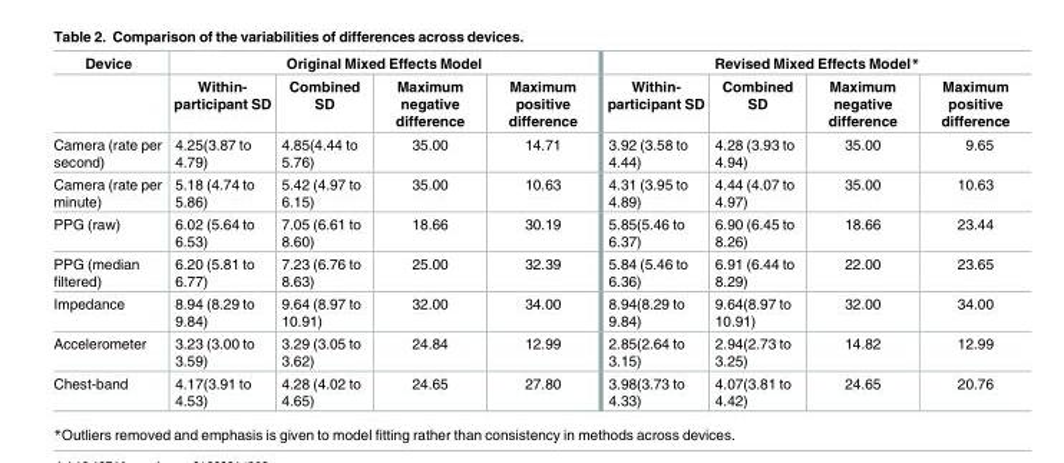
<table><thead><tr><td rowspan="2">Device</td><td colspan="4">Original Mixed Effects Model</td><td colspan="4">Revised Mixed Effects Model*</td></tr><tr><td>Within- participant SD</td><td>Combined SD</td><td>Maximum negative difference</td><td>Maximum positive difference</td><td>Within- participant SD</td><td>Combined SD</td><td>Maximum negative difference</td><td>Maximum positive difference</td></tr></thead><tbody><tr><td>Camera (rate per second)</td><td>4.25(3.87 to 4.79)</td><td>4.85(4.44 to 5.76)</td><td>35.00</td><td>14.71</td><td>3.92 (3.58 to 4.44)</td><td>4.28 (3.93 to 4.94)</td><td>35.00</td><td>9.65</td></tr><tr><td>Camera (rate per minute)</td><td>5.18 (4.74 to 5.86)</td><td>5.42 (4.97 to 6.15)</td><td>35.00</td><td>10.63</td><td>4.31 (3.95 to 4.89)</td><td>4.44 (4.07 to 4.97)</td><td>35.00</td><td>10.63</td></tr><tr><td>PPG (raw)</td><td>6.02 (5.64 to 6.53)</td><td>7.05 (6.61 to 8.60)</td><td>18.66</td><td>30.19</td><td>5.85(5.46 to 6.37)</td><td>6.90 (6.45 to 8.26)</td><td>18.66</td><td>23.44</td></tr><tr><td>PPG (median filtered)</td><td>6.20 (5.81 to 6.77)</td><td>7.23 (6.76 to 8.63)</td><td>25.00</td><td>32.39</td><td>5.84 (5.46 to 6.36)</td><td>6.91 (6.44 to 8.29)</td><td>22.00</td><td>23.65</td></tr><tr><td>Impedance</td><td>8.94 (8.29 to 9.84)</td><td>9.64 (8.97 to 10.91)</td><td>32.00</td><td>34.00</td><td>8.94(8.29 to 9.84)</td><td>9.64(8.97 to 10.91)</td><td>32.00</td><td>34.00</td></tr><tr><td>Accelerometer</td><td>3.23 (3.00 to 3.59)</td><td>3.29 (3.05 to 3.62)</td><td>24.84</td><td>12.99</td><td>2.85(2.64 to 3.15)</td><td>2.94(2.73 to 3.25)</td><td>14.82</td><td>12.99</td></tr><tr><td>Chest-band</td><td>4.17(3.91 to 4.53)</td><td>4.28 (4.02 to 4.65)</td><td>24.65</td><td>27.80</td><td>3.98(3.73 to 4.33)</td><td>4.07(3.81 to 4.42)</td><td>24.65</td><td>20.76</td></tr></tbody></table>